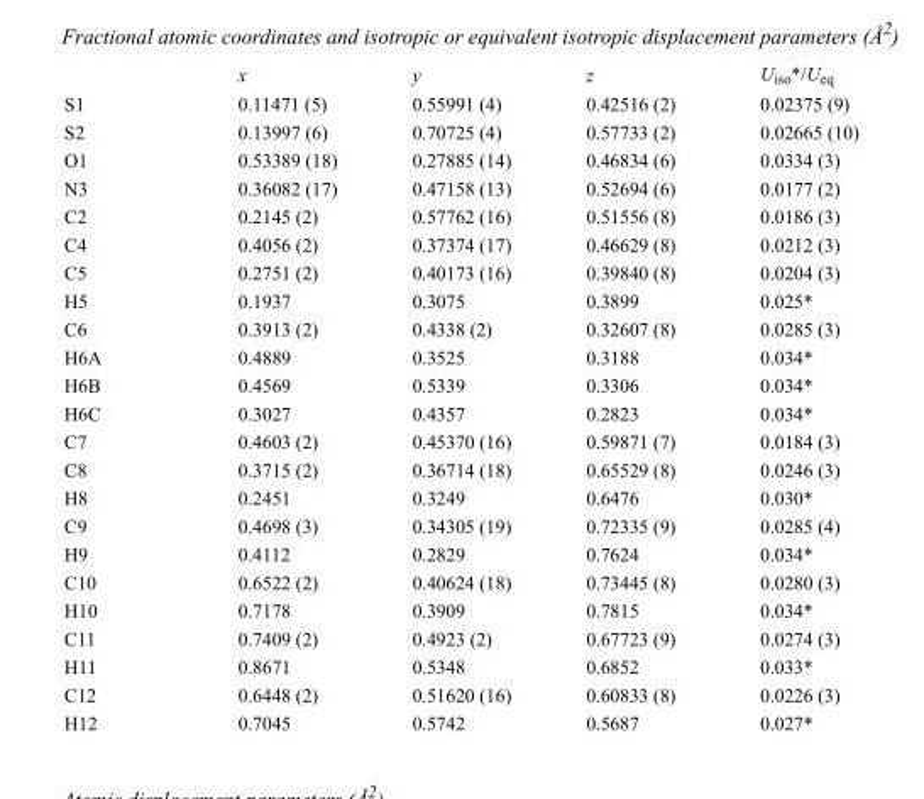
<table><thead><tr><td></td><td>x</td><td>y</td><td>z</td><td>U<sub>iso</sub>*/U<sub>eq</sub></td></tr></thead><tbody><tr><td>S1</td><td>0.11471 (5)</td><td>0.55991 (4)</td><td>0.42516 (2)</td><td>0.02375 (9)</td></tr><tr><td>S2</td><td>0.13997 (6)</td><td>0.70725 (4)</td><td>0.57733 (2)</td><td>0.02665 (10)</td></tr><tr><td>O1</td><td>0.53389 (18)</td><td>0.27885 (14)</td><td>0.46834 (6)</td><td>0.0334 (3)</td></tr><tr><td>N3</td><td>0.36082 (17)</td><td>0.47158 (13)</td><td>0.52694 (6)</td><td>0.0177 (2)</td></tr><tr><td>C2</td><td>0.2145 (2)</td><td>0.57762 (16)</td><td>0.51556 (8)</td><td>0.0186 (3)</td></tr><tr><td>C4</td><td>0.4056 (2)</td><td>0.37374 (17)</td><td>0.46629 (8)</td><td>0.0212 (3)</td></tr><tr><td>C5</td><td>0.2751 (2)</td><td>0.40173 (16)</td><td>0.39840 (8)</td><td>0.0204 (3)</td></tr><tr><td>H5</td><td>0.1937</td><td>0.3075</td><td>0.3899</td><td>0.025*</td></tr><tr><td>C6</td><td>0.3913 (2)</td><td>0.4338 (2)</td><td>0.32607 (8)</td><td>0.0285 (3)</td></tr><tr><td>H6A</td><td>0.4889</td><td>0.3525</td><td>0.3188</td><td>0.034*</td></tr><tr><td>H6B</td><td>0.4569</td><td>0.5339</td><td>0.3306</td><td>0.034*</td></tr><tr><td>H6C</td><td>0.3027</td><td>0.4357</td><td>0.2823</td><td>0.034*</td></tr><tr><td>C7</td><td>0.4603 (2)</td><td>0.45370 (16)</td><td>0.59871 (7)</td><td>0.0184 (3)</td></tr><tr><td>C8</td><td>0.3715 (2)</td><td>0.36714 (18)</td><td>0.65529 (8)</td><td>0.0246 (3)</td></tr><tr><td>H8</td><td>0.2451</td><td>0.3249</td><td>0.6476</td><td>0.030*</td></tr><tr><td>C9</td><td>0.4698 (3)</td><td>0.34305 (19)</td><td>0.72335 (9)</td><td>0.0285 (4)</td></tr><tr><td>H9</td><td>0.4112</td><td>0.2829</td><td>0.7624</td><td>0.034*</td></tr><tr><td>C10</td><td>0.6522 (2)</td><td>0.40624 (18)</td><td>0.73445 (8)</td><td>0.0280 (3)</td></tr><tr><td>H10</td><td>0.7178</td><td>0.3909</td><td>0.7815</td><td>0.034*</td></tr><tr><td>C11</td><td>0.7409 (2)</td><td>0.4923 (2)</td><td>0.67723 (9)</td><td>0.0274 (3)</td></tr><tr><td>H11</td><td>0.8671</td><td>0.5348</td><td>0.6852</td><td>0.033*</td></tr><tr><td>C12</td><td>0.6448 (2)</td><td>0.51620 (16)</td><td>0.60833 (8)</td><td>0.0226 (3)</td></tr><tr><td>H12</td><td>0.7045</td><td>0.5742</td><td>0.5687</td><td>0.027*</td></tr></tbody></table>